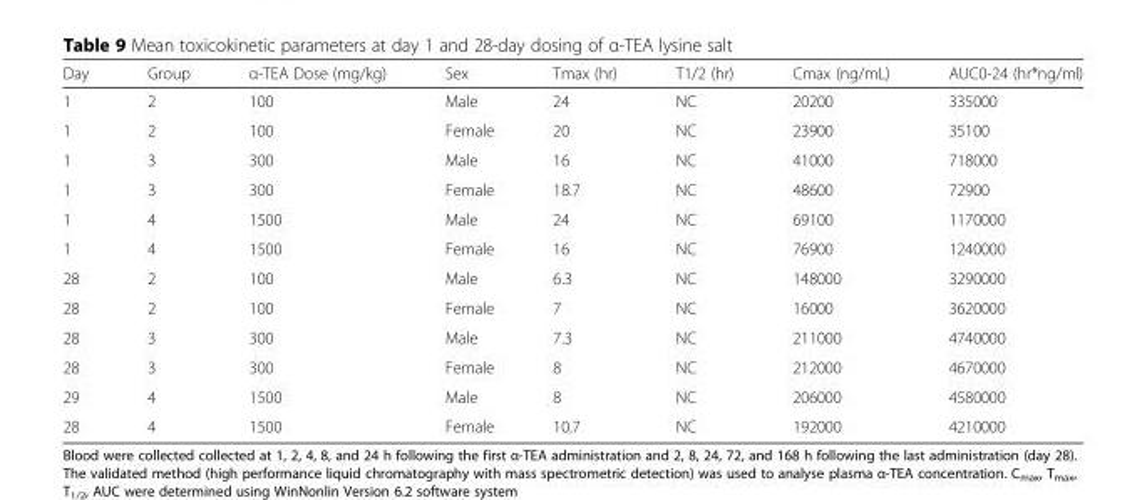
<table><thead><tr><td>Day</td><td>Group</td><td>α-TEA Dose (mg/kg)</td><td>Sex</td><td>Tmax (hr)</td><td>T1/2 (hr)</td><td>Cmax (ng/mL)</td><td>AUC0-24 (hr*ng/ml)</td></tr></thead><tbody><tr><td>1</td><td>2</td><td>100</td><td>Male</td><td>24</td><td>NC</td><td>20200</td><td>335000</td></tr><tr><td>1</td><td>2</td><td>100</td><td>Female</td><td>20</td><td>NC</td><td>23900</td><td>35100</td></tr><tr><td>1</td><td>3</td><td>300</td><td>Male</td><td>16</td><td>NC</td><td>41000</td><td>718000</td></tr><tr><td>1</td><td>3</td><td>300</td><td>Female</td><td>18.7</td><td>NC</td><td>48600</td><td>72900</td></tr><tr><td>1</td><td>4</td><td>1500</td><td>Male</td><td>24</td><td>NC</td><td>69100</td><td>1170000</td></tr><tr><td>1</td><td>4</td><td>1500</td><td>Female</td><td>16</td><td>NC</td><td>76900</td><td>1240000</td></tr><tr><td>28</td><td>2</td><td>100</td><td>Male</td><td>6.3</td><td>NC</td><td>148000</td><td>3290000</td></tr><tr><td>28</td><td>2</td><td>100</td><td>Female</td><td>7</td><td>NC</td><td>16000</td><td>3620000</td></tr><tr><td>28</td><td>3</td><td>300</td><td>Male</td><td>7.3</td><td>NC</td><td>211000</td><td>4740000</td></tr><tr><td>28</td><td>3</td><td>300</td><td>Female</td><td>8</td><td>NC</td><td>212000</td><td>4670000</td></tr><tr><td>29</td><td>4</td><td>1500</td><td>Male</td><td>8</td><td>NC</td><td>206000</td><td>4580000</td></tr><tr><td>28</td><td>4</td><td>1500</td><td>Female</td><td>10.7</td><td>NC</td><td>192000</td><td>4210000</td></tr></tbody></table>